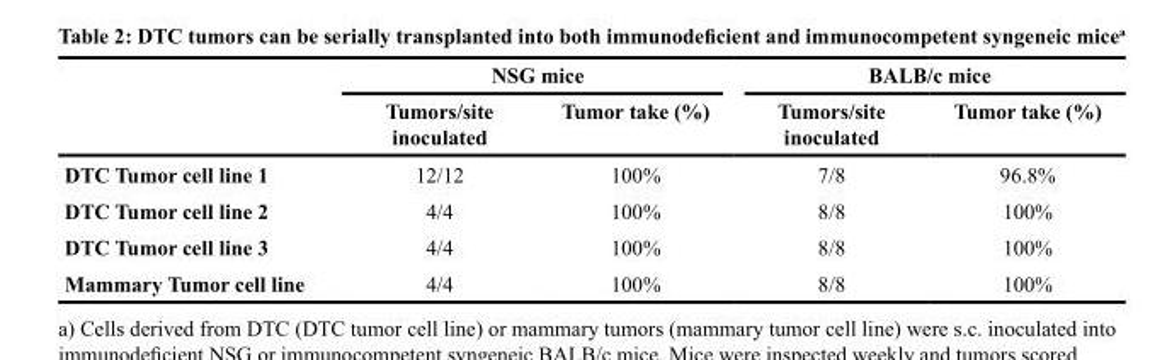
<table><thead><tr><td rowspan="2"></td><td colspan="2">NSG mice</td><td colspan="2">BALB/c mice</td></tr><tr><td>Tumors/site inoculated</td><td>Tumor take (%)</td><td>Tumors/site inoculated</td><td>Tumor take (%)</td></tr></thead><tbody><tr><td>DTC Tumor cell line 1</td><td>12/12</td><td>100%</td><td>7/8</td><td>96.8%</td></tr><tr><td>DTC Tumor cell line 2</td><td>4/4</td><td>100%</td><td>8/8</td><td>100%</td></tr><tr><td>DTC Tumor cell line 3</td><td>4/4</td><td>100%</td><td>8/8</td><td>100%</td></tr><tr><td>Mammary Tumor cell line</td><td>4/4</td><td>100%</td><td>8/8</td><td>100%</td></tr></tbody></table>